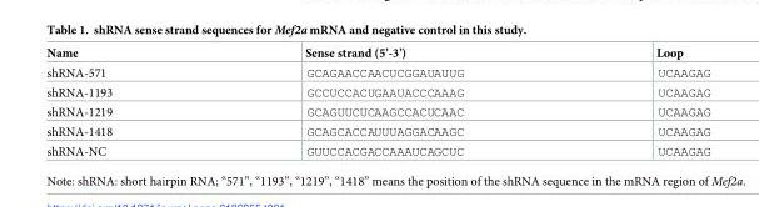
<table><thead><tr><td>Name</td><td>Sense strand (5’-3’)</td><td>Loop</td></tr></thead><tbody><tr><td>shRNA-571</td><td>GCAGAACCAACUCGGAUAUUG</td><td>UCAAGAG</td></tr><tr><td>shRNA-1193</td><td>GCCUCCACUGAAUACCCAAAG</td><td>UCAAGAG</td></tr><tr><td>shRNA-1219</td><td>GCAGUUCUCAAGCCACUCAAC</td><td>UCAAGAG</td></tr><tr><td>shRNA-1418</td><td>GCAGCACCAUUUAGGACAAGC</td><td>UCAAGAG</td></tr><tr><td>shRNA-NC</td><td>GUUCCACGACCAAAUCAGCUC</td><td>UCAAGAG</td></tr></tbody></table>